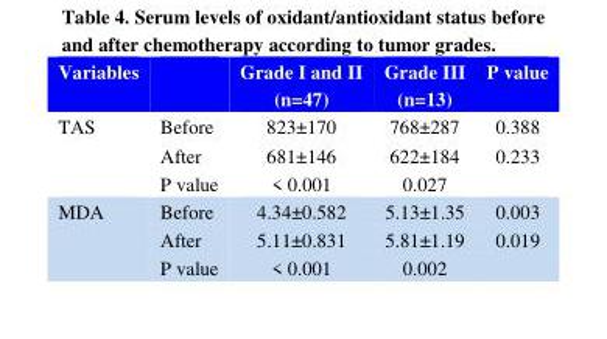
<table><thead><tr><td>Variables</td><td></td><td>Grade I and II (n=47)</td><td>Grade III (n=13)</td><td>P value</td></tr></thead><tbody><tr><td rowspan="3">TAS</td><td>Before</td><td>823±170</td><td>768±287</td><td>0.388</td></tr><tr><td>After</td><td>681±146</td><td>622±184</td><td>0.233</td></tr><tr><td>P value</td><td>&lt; 0.001</td><td>0.027</td><td></td></tr><tr><td rowspan="3">MDA</td><td>Before</td><td>4.34±0.582</td><td>5.13±1.35</td><td>0.003</td></tr><tr><td>After</td><td>5.11±0.831</td><td>5.81±1.19</td><td>0.019</td></tr><tr><td>P value</td><td>&lt; 0.001</td><td>0.002</td><td></td></tr></tbody></table>